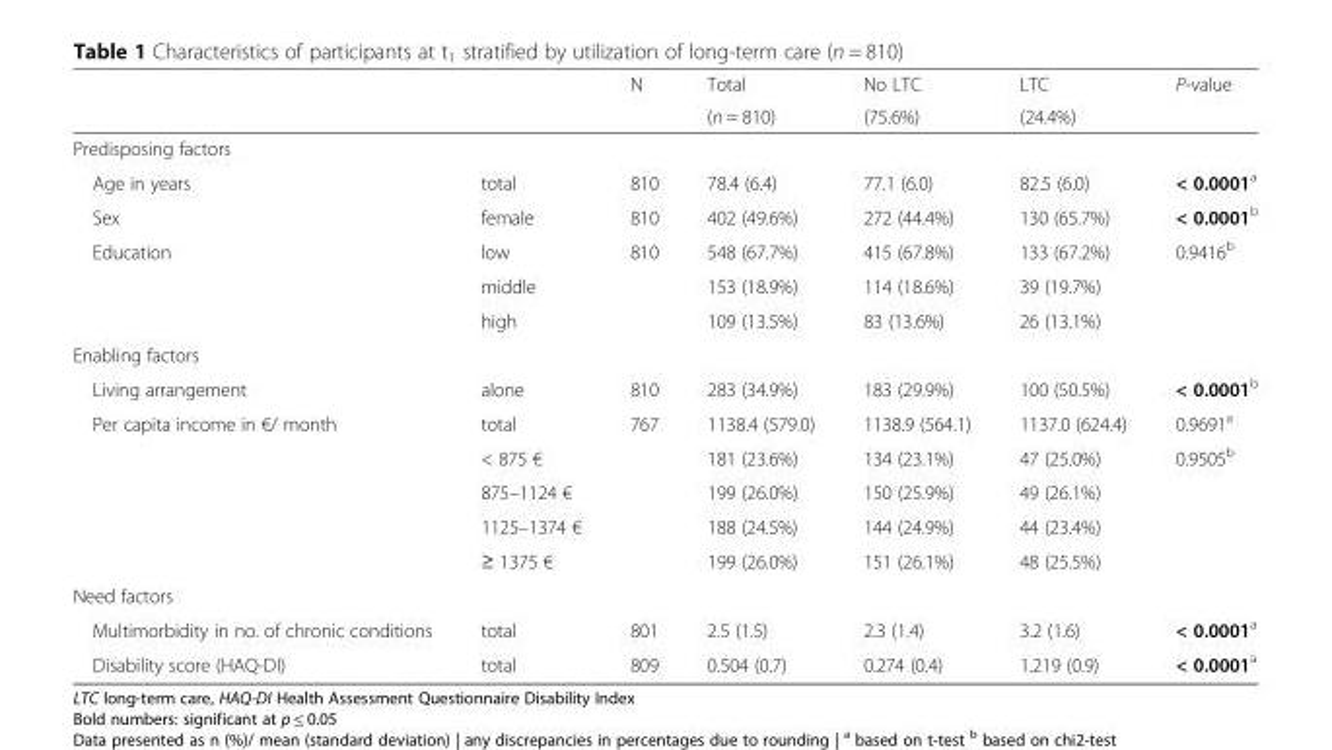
<table><thead><tr><td rowspan="2"></td><td rowspan="2"></td><td rowspan="2">N</td><td rowspan="2">Total (n = 810)</td><td rowspan="2">No LTC (75.6%)</td><td rowspan="2">LTC (24.4%)</td><td rowspan="2">P-value</td></tr><tr></tr></thead><tbody><tr><td colspan="7">Predisposing factors</td></tr><tr><td>Age in years</td><td>total</td><td>810</td><td>78.4 (6.4)</td><td>77.1 (6.0)</td><td>82.5 (6.0)</td><td>&lt; 0.0001<sup>a</sup></td></tr><tr><td>Sex</td><td>female</td><td>810</td><td>402 (49.6%)</td><td>272 (44.4%)</td><td>130 (65.7%)</td><td>&lt; 0.0001<sup>b</sup></td></tr><tr><td rowspan="3">Education</td><td>low</td><td>810</td><td>548 (67.7%)</td><td>415 (67.8%)</td><td>133 (67.2%)</td><td>0.9416<sup>b</sup></td></tr><tr><td>middle</td><td></td><td>153 (18.9%)</td><td>114 (18.6%)</td><td>39 (19.7%)</td><td></td></tr><tr><td>high</td><td></td><td>109 (13.5%)</td><td>83 (13.6%)</td><td>26 (13.1%)</td><td></td></tr><tr><td colspan="7">Enabling factors</td></tr><tr><td>Living arrangement</td><td>alone</td><td>810</td><td>283 (34.9%)</td><td>183 (29.9%)</td><td>100 (50.5%)</td><td>&lt; 0.0001<sup>b</sup></td></tr><tr><td rowspan="5">Per capita income in €/ month</td><td>total</td><td>767</td><td>1138.4 (579.0)</td><td>1138.9 (564.1)</td><td>1137.0 (624.4)</td><td>0.9691<sup>a</sup></td></tr><tr><td>&lt; 875 €</td><td></td><td>181 (23.6%)</td><td>134 (23.1%)</td><td>47 (25.0%)</td><td>0.9505<sup>b</sup></td></tr><tr><td>875–1124 €</td><td></td><td>199 (26.0%)</td><td>150 (25.9%)</td><td>49 (26.1%)</td><td></td></tr><tr><td>1125–1374 €</td><td></td><td>188 (24.5%)</td><td>144 (24.9%)</td><td>44 (23.4%)</td><td></td></tr><tr><td>≥ 1375 €</td><td></td><td>199 (26.0%)</td><td>151 (26.1%)</td><td>48 (25.5%)</td><td></td></tr><tr><td colspan="7">Need factors</td></tr><tr><td>Multimorbidity in no. of chronic conditions</td><td>total</td><td>801</td><td>2.5 (1.5)</td><td>2.3 (1.4)</td><td>3.2 (1.6)</td><td>&lt; 0.0001<sup>a</sup></td></tr><tr><td>Disability score (HAQ-DI)</td><td>total</td><td>809</td><td>0.504 (0.7)</td><td>0.274 (0.4)</td><td>1.219 (0.9)</td><td>&lt; 0.0001<sup>a</sup></td></tr></tbody></table>